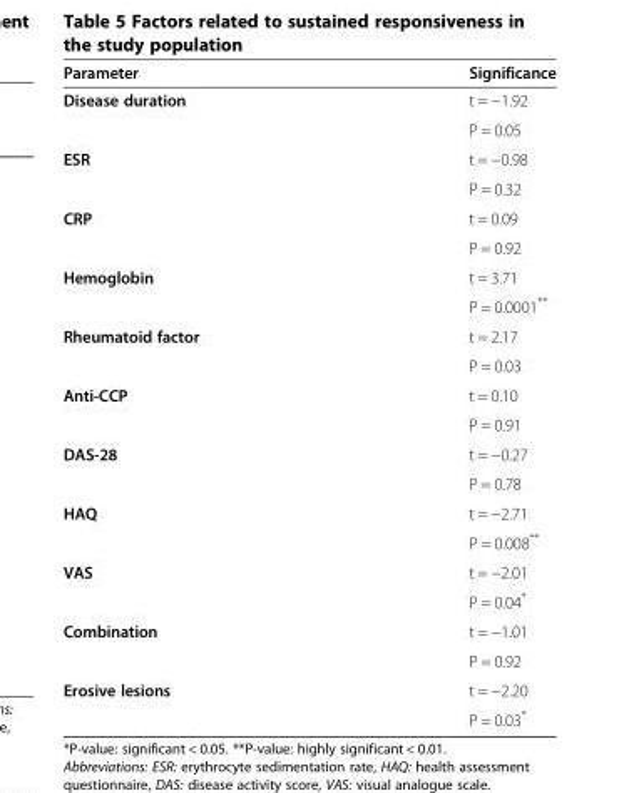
<table><thead><tr><td>Parameter</td><td>Significance</td></tr></thead><tbody><tr><td rowspan="2">Disease duration</td><td>t = −1.92</td></tr><tr><td>P = 0.05</td></tr><tr><td rowspan="2">ESR</td><td>t = −0.98</td></tr><tr><td>P = 0.32</td></tr><tr><td rowspan="2">CRP</td><td>t = 0.09</td></tr><tr><td>P = 0.92</td></tr><tr><td rowspan="2">Hemoglobin</td><td>t = 3.71</td></tr><tr><td>P = 0.0001**</td></tr><tr><td rowspan="2">Rheumatoid factor</td><td>t = 2.17</td></tr><tr><td>P = 0.03</td></tr><tr><td rowspan="2">Anti-CCP</td><td>t = 0.10</td></tr><tr><td>P = 0.91</td></tr><tr><td rowspan="2">DAS-28</td><td>t = −0.27</td></tr><tr><td>P = 0.78</td></tr><tr><td rowspan="2">HAQ</td><td>t = −2.71</td></tr><tr><td>P = 0.008**</td></tr><tr><td rowspan="2">VAS</td><td>t = −2.01</td></tr><tr><td>P = 0.04*</td></tr><tr><td rowspan="2">Combination</td><td>t = −1.01</td></tr><tr><td>P = 0.92</td></tr><tr><td rowspan="2">Erosive lesions</td><td>t = −2.20</td></tr><tr><td>P = 0.03*</td></tr></tbody></table>